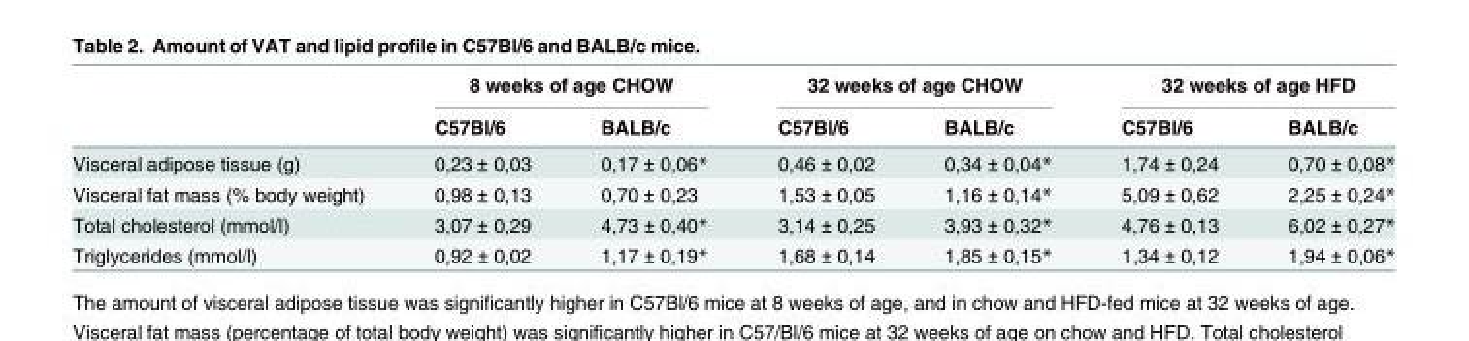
<table><thead><tr><td rowspan="2"></td><td colspan="2">8 weeks of age CHOW</td><td colspan="2">32 weeks of age CHOW</td><td colspan="2">32 weeks of age HFD</td></tr><tr><td>C57Bl/6</td><td>BALB/c</td><td>C57Bl/6</td><td>BALB/c</td><td>C57Bl/6</td><td>BALB/c</td></tr></thead><tbody><tr><td>Visceral adipose tissue (g)</td><td>0,23 ± 0,03</td><td>0,17 ± 0,06*</td><td>0,46 ± 0,02</td><td>0,34 ± 0,04*</td><td>1,74 ± 0,24</td><td>0,70 ± 0,08*</td></tr><tr><td>Visceral fat mass (% body weight)</td><td>0,98 ± 0,13</td><td>0,70 ± 0,23</td><td>1,53 ± 0,05</td><td>1,16 ± 0,14*</td><td>5,09 ± 0,62</td><td>2,25 ± 0,24*</td></tr><tr><td>Total cholesterol (mmol/l)</td><td>3,07 ± 0,29</td><td>4,73 ± 0,40*</td><td>3,14 ± 0,25</td><td>3,93 ± 0,32*</td><td>4,76 ± 0,13</td><td>6,02 ± 0,27*</td></tr><tr><td>Triglycerides (mmol/l)</td><td>0,92 ± 0,02</td><td>1,17 ± 0,19*</td><td>1,68 ± 0,14</td><td>1,85 ± 0,15*</td><td>1,34 ± 0,12</td><td>1,94 ± 0,06*</td></tr></tbody></table>